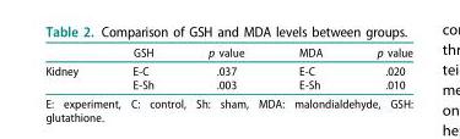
<table><thead><tr><td></td><td>GSH</td><td>p value</td><td>MDA</td><td>p value</td></tr></thead><tbody><tr><td rowspan="2">Kidney</td><td>E-C</td><td>.037</td><td>E-C</td><td>.020</td></tr><tr><td>E-Sh</td><td>.003</td><td>E-Sh</td><td>.010</td></tr></tbody></table>